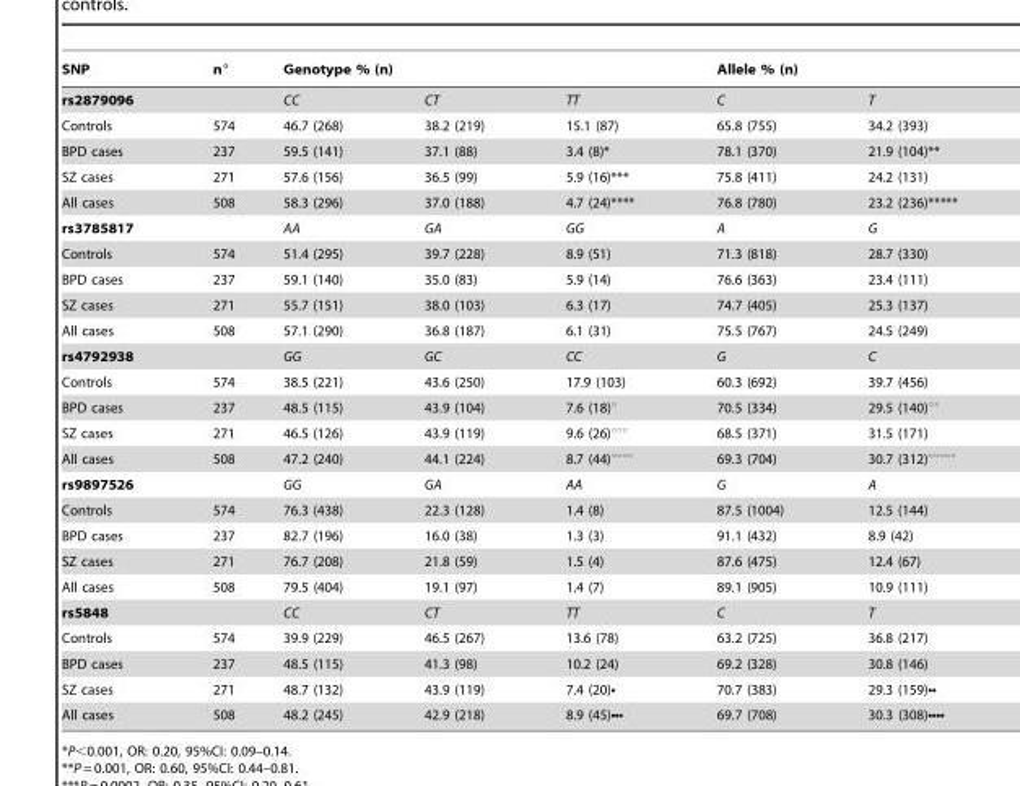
<table><thead><tr><td rowspan="2">SNP rs2879096</td><td rowspan="2">n°</td><td colspan="3">Genotype % (n)</td><td colspan="2">Allele % (n)</td></tr><tr><td>CC</td><td>CT</td><td>TT</td><td>C</td><td>T</td></tr></thead><tbody><tr><td>Controls</td><td>574</td><td>46.7 (268)</td><td>38.2 (219)</td><td>15.1 (87)</td><td>65.8 (755)</td><td>34.2 (393)</td></tr><tr><td>BPD cases</td><td>237</td><td>59.5 (141)</td><td>37.1 (88)</td><td>3.4 (8)*</td><td>78.1 (370)</td><td>21.9 (104)**</td></tr><tr><td>SZ cases</td><td>271</td><td>57.6 (156)</td><td>36.5 (99)</td><td>5.9 (16)***</td><td>75.8 (411)</td><td>24.2 (131)</td></tr><tr><td>All cases</td><td>508</td><td>58.3 (296)</td><td>37.0 (188)</td><td>4.7 (24)****</td><td>76.8 (780)</td><td>23.2 (236)*****</td></tr><tr><td>rs3785817</td><td></td><td>AA</td><td>GA</td><td>GG</td><td>A</td><td>G</td></tr><tr><td>Controls</td><td>574</td><td>51.4 (295)</td><td>39.7 (228)</td><td>8.9 (51)</td><td>71.3 (818)</td><td>28.7 (330)</td></tr><tr><td>BPD cases</td><td>237</td><td>59.1 (140)</td><td>35.0 (83)</td><td>5.9 (14)</td><td>76.6 (363)</td><td>23.4 (111)</td></tr><tr><td>SZ cases</td><td>271</td><td>55.7 (151)</td><td>38.0 (103)</td><td>6.3 (17)</td><td>74.7 (405)</td><td>25.3 (137)</td></tr><tr><td>All cases</td><td>508</td><td>57.1 (290)</td><td>36.8 (187)</td><td>6.1 (31)</td><td>75.5 (767)</td><td>24.5 (249)</td></tr><tr><td>rs4792938</td><td></td><td>GG</td><td>GC</td><td>CC</td><td>G</td><td>C</td></tr><tr><td>Controls</td><td>574</td><td>38.5 (221)</td><td>43.6 (250)</td><td>17.9 (103)</td><td>60.3 (692)</td><td>39.7 (456)</td></tr><tr><td>BPD cases</td><td>237</td><td>48.5 (115)</td><td>43.9 (104)</td><td>7.6 (18)°</td><td>70.5 (334)</td><td>29.5 (140)°°</td></tr><tr><td>SZ cases</td><td>271</td><td>46.5 (126)</td><td>43.9 (119)</td><td>9.6 (26)°°°</td><td>68.5 (371)</td><td>31.5 (171)</td></tr><tr><td>All cases</td><td>508</td><td>47.2 (240)</td><td>44.1 (224)</td><td>8.7 (44)°°°°</td><td>69.3 (704)</td><td>30.7 (312)°°°°°</td></tr><tr><td>rs9897526</td><td></td><td>GG</td><td>GA</td><td>AA</td><td>G</td><td>A</td></tr><tr><td>Controls</td><td>574</td><td>76.3 (438)</td><td>22.3 (128)</td><td>1.4 (8)</td><td>87.5 (1004)</td><td>12.5 (144)</td></tr><tr><td>BPD cases</td><td>237</td><td>82.7 (196)</td><td>16.0 (38)</td><td>1.3 (3)</td><td>91.1 (432)</td><td>8.9 (42)</td></tr><tr><td>SZ cases</td><td>271</td><td>76.7 (208)</td><td>21.8 (59)</td><td>1.5 (4)</td><td>87.6 (475)</td><td>12.4 (67)</td></tr><tr><td>All cases</td><td>508</td><td>79.5 (404)</td><td>19.1 (97)</td><td>1.4 (7)</td><td>89.1 (905)</td><td>10.9 (111)</td></tr><tr><td>rs5848</td><td></td><td>CC</td><td>CT</td><td>TT</td><td>C</td><td>T</td></tr><tr><td>Controls</td><td>574</td><td>39.9 (229)</td><td>46.5 (267)</td><td>13.6 (78)</td><td>63.2 (725)</td><td>36.8 (217)</td></tr><tr><td>BPD cases</td><td>237</td><td>48.5 (115)</td><td>41.3 (98)</td><td>10.2 (24)</td><td>69.2 (328)</td><td>30.8 (146)</td></tr><tr><td>SZ cases</td><td>271</td><td>48.7 (132)</td><td>43.9 (119)</td><td>7.4 (20)•</td><td>70.7 (383)</td><td>29.3 (159)••</td></tr><tr><td>All cases</td><td>508</td><td>48.2 (245)</td><td>42.9 (218)</td><td>8.9 (45)•••</td><td>69.7 (708)</td><td>30.3 (308)••••</td></tr></tbody></table>